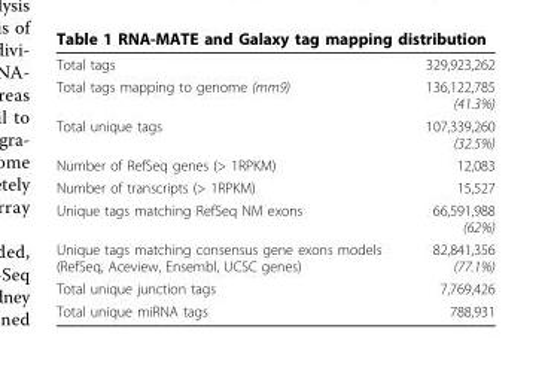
<table><tbody><tr><td>Total tags</td><td>329,923,262</td></tr><tr><td>Total tags mapping to genome (mm9)</td><td>136,122,785 (41.3%)</td></tr><tr><td>Total unique tags</td><td>107,339,260 (32.5%)</td></tr><tr><td>Number of RefSeq genes (&gt; 1RPKM)</td><td>12,083</td></tr><tr><td>Number of transcripts (&gt; 1RPKM)</td><td>15,527</td></tr><tr><td>Unique tags matching RefSeq NM exons</td><td>66,591,988 (62%)</td></tr><tr><td>Unique tags matching consensus gene exons models (RefSeq, Aceview, Ensembl, UCSC genes)</td><td>82,841,356 (77.1%)</td></tr><tr><td>Total unique junction tags</td><td>7,769,426</td></tr><tr><td>Total unique miRNA tags</td><td>788,931</td></tr></tbody></table>